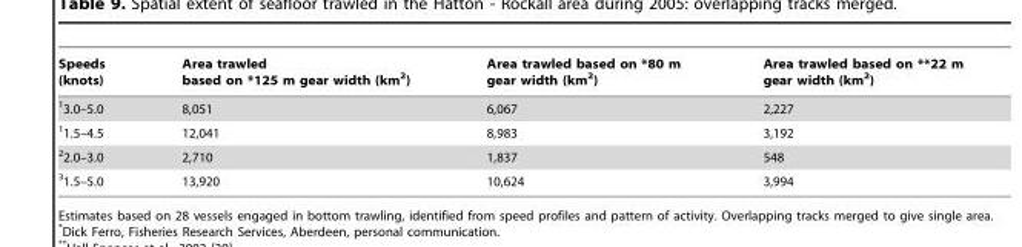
<table><thead><tr><td>Speeds (knots)</td><td>Area trawled based on *125 m gear width (km<sup>2</sup>)</td><td>Area trawled based on *80 m gear width (km<sup>2</sup>)</td><td>Area trawled based on **22 m gear width (km<sup>2</sup>)</td></tr></thead><tbody><tr><td>13.0–5.0</td><td>8,051</td><td>6,067</td><td>2,227</td></tr><tr><td>11.5–4.5</td><td>12,041</td><td>8,983</td><td>3,192</td></tr><tr><td>22.0–3.0</td><td>2,710</td><td>1,837</td><td>548</td></tr><tr><td>31.5–5.0</td><td>13,920</td><td>10,624</td><td>3,994</td></tr></tbody></table>